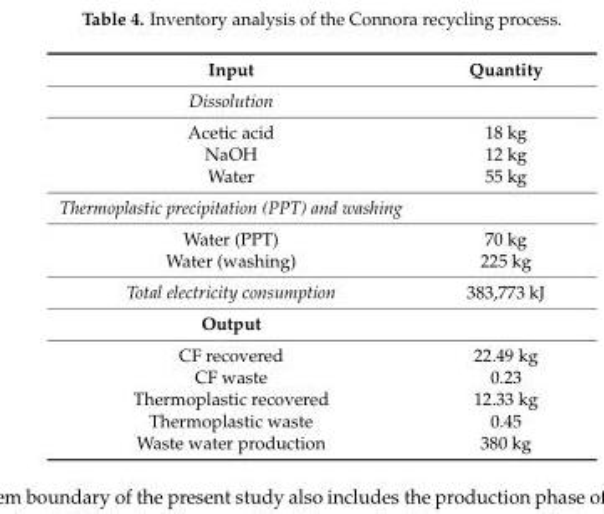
<table><tbody><tr><td>Input</td><td>Quantity</td></tr><tr><td colspan="2">Dissolution</td></tr><tr><td>Acetic acid</td><td>18 kg</td></tr><tr><td>NaOH</td><td>12 kg</td></tr><tr><td>Water</td><td>55 kg</td></tr><tr><td colspan="2">Thermoplastic precipitation (PPT) and washing</td></tr><tr><td>Water (PPT)</td><td>70 kg</td></tr><tr><td>Water (washing)</td><td>225 kg</td></tr><tr><td>Total electricity consumption</td><td>383,773 kJ</td></tr><tr><td colspan="2">Output</td></tr><tr><td>CF recovered</td><td>22.49 kg</td></tr><tr><td>CF waste</td><td>0.23</td></tr><tr><td>Thermoplastic recovered</td><td>12.33 kg</td></tr><tr><td>Thermoplastic waste</td><td>0.45</td></tr><tr><td>Waste water production</td><td>380 kg</td></tr></tbody></table>